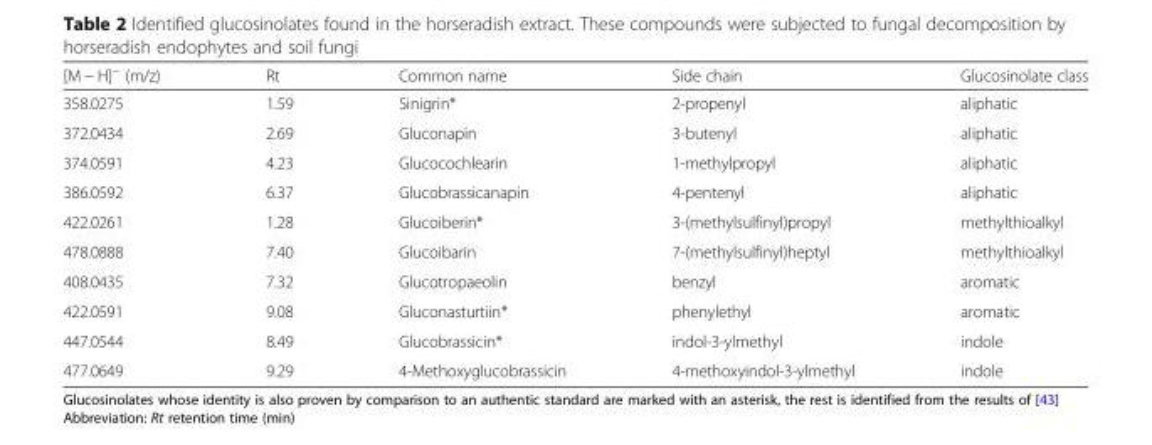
<table><thead><tr><td>[M − H]<sup>−</sup> (m/z)</td><td>Rt</td><td>Common name</td><td>Side chain</td><td>Glucosinolate class</td></tr></thead><tbody><tr><td>358.0275</td><td>1.59</td><td>Sinigrin*</td><td>2-propenyl</td><td>aliphatic</td></tr><tr><td>372.0434</td><td>2.69</td><td>Gluconapin</td><td>3-butenyl</td><td>aliphatic</td></tr><tr><td>374.0591</td><td>4.23</td><td>Glucocochlearin</td><td>1-methylpropyl</td><td>aliphatic</td></tr><tr><td>386.0592</td><td>6.37</td><td>Glucobrassicanapin</td><td>4-pentenyl</td><td>aliphatic</td></tr><tr><td>422.0261</td><td>1.28</td><td>Glucoiberin*</td><td>3-(methylsulfinyl)propyl</td><td>methylthioalkyl</td></tr><tr><td>478.0888</td><td>7.40</td><td>Glucoibarin</td><td>7-(methylsulfinyl)heptyl</td><td>methylthioalkyl</td></tr><tr><td>408.0435</td><td>7.32</td><td>Glucotropaeolin</td><td>benzyl</td><td>aromatic</td></tr><tr><td>422.0591</td><td>9.08</td><td>Gluconasturtiin*</td><td>phenylethyl</td><td>aromatic</td></tr><tr><td>447.0544</td><td>8.49</td><td>Glucobrassicin*</td><td>indol-3-ylmethyl</td><td>indole</td></tr><tr><td>477.0649</td><td>9.29</td><td>4-Methoxyglucobrassicin</td><td>4-methoxyindol-3-ylmethyl</td><td>indole</td></tr></tbody></table>